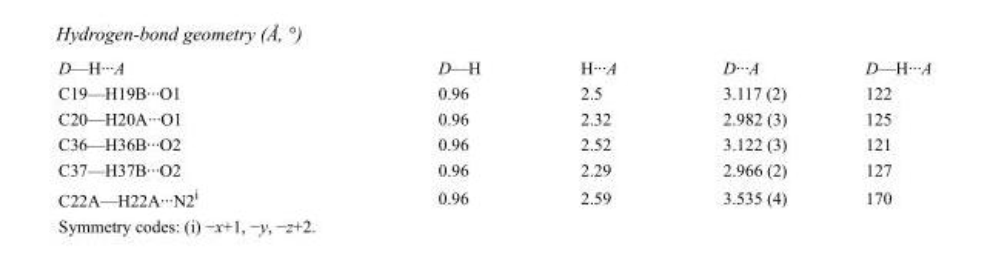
<table><tbody><tr><td>D—H···A</td><td>D—H</td><td>H···A</td><td>D···A</td><td>D—H···A</td></tr><tr><td>C19—H19B···O1</td><td>0.96</td><td>2.5</td><td>3.117 (2)</td><td>122</td></tr><tr><td>C20—H20A···O1</td><td>0.96</td><td>2.32</td><td>2.982 (3)</td><td>125</td></tr><tr><td>C36—H36B···O2</td><td>0.96</td><td>2.52</td><td>3.122 (3)</td><td>121</td></tr><tr><td>C37—H37B···O2</td><td>0.96</td><td>2.29</td><td>2.966 (2)</td><td>127</td></tr><tr><td>C22A—H22A···N2<sup>i</sup></td><td>0.96</td><td>2.59</td><td>3.535 (4)</td><td>170</td></tr></tbody></table>